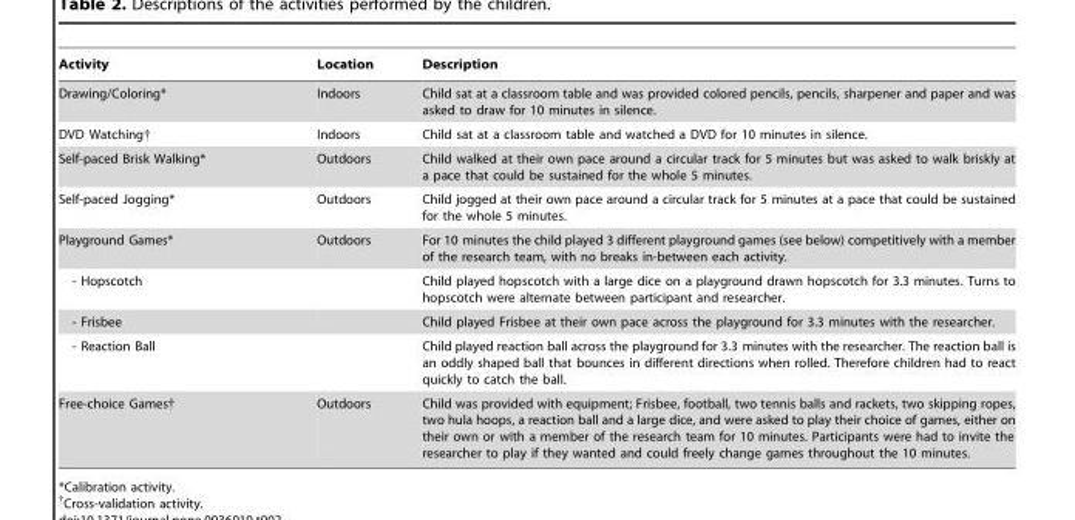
<table><thead><tr><td>Activity</td><td>Location</td><td>Description</td></tr></thead><tbody><tr><td>Drawing/Coloring*</td><td>Indoors</td><td>Child sat at a classroom table and was provided colored pencils, pencils, sharpener and paper and was asked to draw for 10 minutes in silence.</td></tr><tr><td>DVD Watching†</td><td>Indoors</td><td>Child sat at a classroom table and watched a DVD for 10 minutes in silence.</td></tr><tr><td>Self-paced Brisk Walking*</td><td>Outdoors</td><td>Child walked at their own pace around a circular track for 5 minutes but was asked to walk briskly at a pace that could be sustained for the whole 5 minutes.</td></tr><tr><td>Self-paced Jogging*</td><td>Outdoors</td><td>Child jogged at their own pace around a circular track for 5 minutes at a pace that could be sustained for the whole 5 minutes.</td></tr><tr><td>Playground Games*</td><td>Outdoors</td><td>For 10 minutes the child played 3 different playground games (see below) competitively with a member of the research team, with no breaks in-between each activity.</td></tr><tr><td>- Hopscotch</td><td></td><td>Child played hopscotch with a large dice on a playground drawn hopscotch for 3.3 minutes. Turns to hopscotch were alternate between participant and researcher.</td></tr><tr><td>- Frisbee</td><td></td><td>Child played Frisbee at their own pace across the playground for 3.3 minutes with the researcher.</td></tr><tr><td>- Reaction Ball</td><td></td><td>Child played reaction ball across the playground for 3.3 minutes with the researcher. The reaction ball is an oddly shaped ball that bounces in different directions when rolled. Therefore children had to react quickly to catch the ball.</td></tr><tr><td>Free-choice Games†</td><td>Outdoors</td><td>Child was provided with equipment; Frisbee, football, two tennis balls and rackets, two skipping ropes, two hula hoops, a reaction ball and a large dice, and were asked to play their choice of games, either on their own or with a member of the research team for 10 minutes. Participants were had to invite the researcher to play if they wanted and could freely change games throughout the 10 minutes.</td></tr></tbody></table>